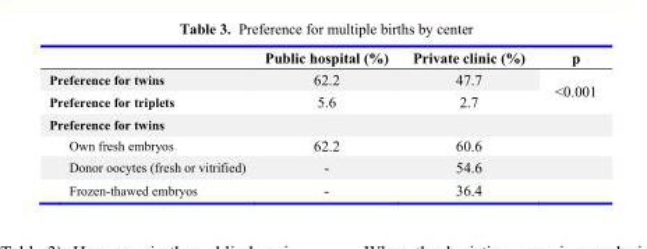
<table><thead><tr><td></td><td>Public hospital (%)</td><td>Private clinic (%)</td><td>p</td></tr></thead><tbody><tr><td>Preference for twins</td><td>62.2</td><td>47.7</td><td rowspan="2">&lt;0.001</td></tr><tr><td>Preference for triplets</td><td>5.6</td><td>2.7</td></tr><tr><td colspan="4">Preference for twins</td></tr><tr><td>Own fresh embryos</td><td>62.2</td><td>60.6</td><td></td></tr><tr><td>Donor oocytes (fresh or vitrified)</td><td>-</td><td>54.6</td><td></td></tr><tr><td>Frozen-thawed embryos</td><td>-</td><td>36.4</td><td></td></tr></tbody></table>